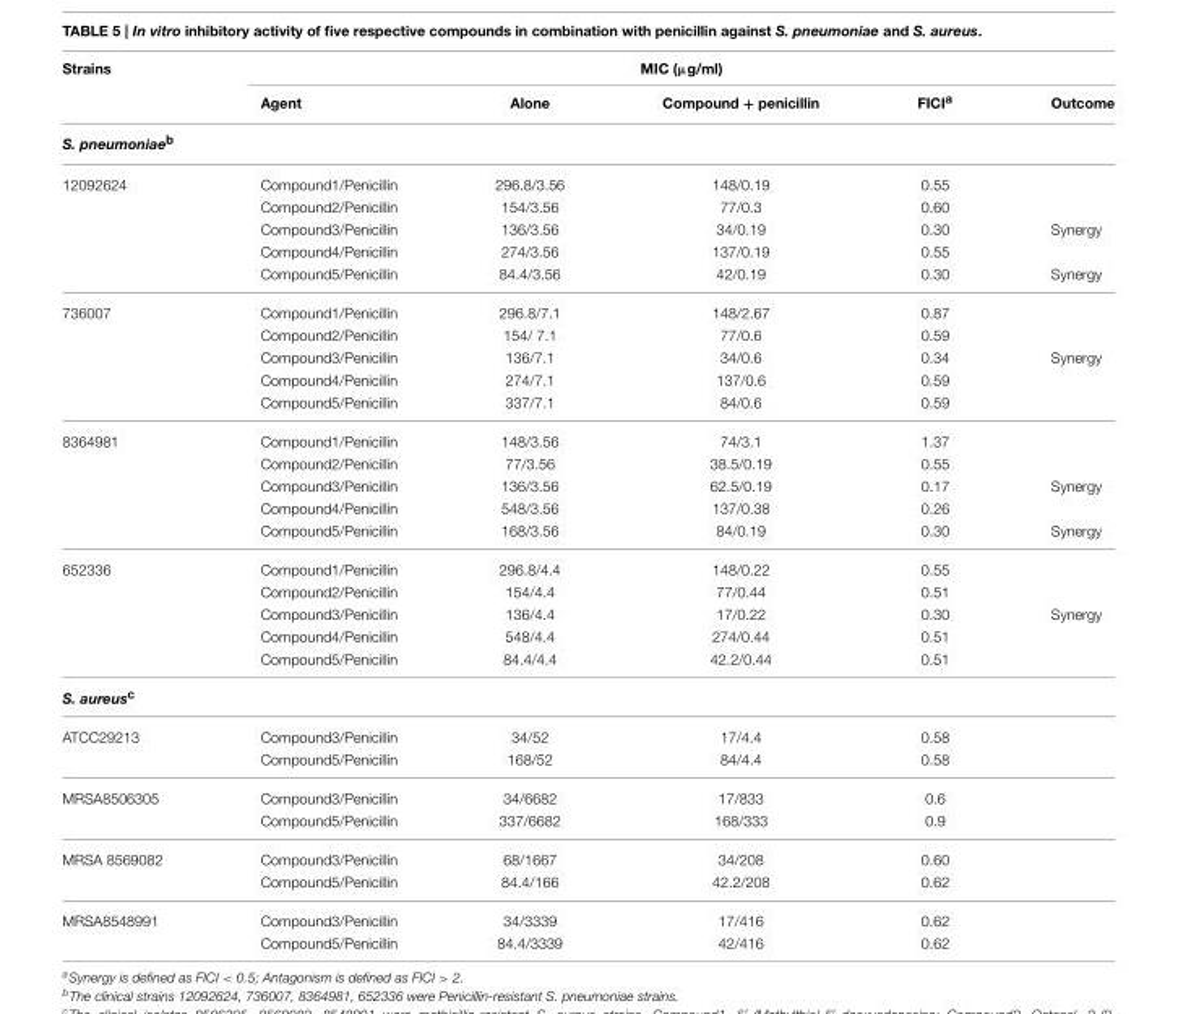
<table><thead><tr><td rowspan="2">Strains</td><td colspan="5">MIC (µg/ml)</td></tr><tr><td>Agent</td><td>Alone</td><td>Compound + penicillin</td><td>FICI<sup>a</sup></td><td>Outcome</td></tr></thead><tbody><tr><td colspan="6">S. pneumoniae<sup>b</sup></td></tr><tr><td rowspan="5">12092624</td><td>Compound1/Penicillin</td><td>296.8/3.56</td><td>148/0.19</td><td>0.55</td><td></td></tr><tr><td>Compound2/Penicillin</td><td>154/3.56</td><td>77/0.3</td><td>0.60</td><td></td></tr><tr><td>Compound3/Penicillin</td><td>136/3.56</td><td>34/0.19</td><td>0.30</td><td>Synergy</td></tr><tr><td>Compound4/Penicillin</td><td>274/3.56</td><td>137/0.19</td><td>0.55</td><td></td></tr><tr><td>Compound5/Penicillin</td><td>84.4/3.56</td><td>42/0.19</td><td>0.30</td><td>Synergy</td></tr><tr><td rowspan="5">736007</td><td>Compound1/Penicillin</td><td>296.8/7.1</td><td>148/2.67</td><td>0.87</td><td></td></tr><tr><td>Compound2/Penicillin</td><td>154/ 7.1</td><td>77/0.6</td><td>0.59</td><td></td></tr><tr><td>Compound3/Penicillin</td><td>136/7.1</td><td>34/0.6</td><td>0.34</td><td>Synergy</td></tr><tr><td>Compound4/Penicillin</td><td>274/7.1</td><td>137/0.6</td><td>0.59</td><td></td></tr><tr><td>Compound5/Penicillin</td><td>337/7.1</td><td>84/0.6</td><td>0.59</td><td></td></tr><tr><td rowspan="5">8364981</td><td>Compound1/Penicillin</td><td>148/3.56</td><td>74/3.1</td><td>1.37</td><td></td></tr><tr><td>Compound2/Penicillin</td><td>77/3.56</td><td>38.5/0.19</td><td>0.55</td><td></td></tr><tr><td>Compound3/Penicillin</td><td>136/3.56</td><td>62.5/0.19</td><td>0.17</td><td>Synergy</td></tr><tr><td>Compound4/Penicillin</td><td>548/3.56</td><td>137/0.38</td><td>0.26</td><td></td></tr><tr><td>Compound5/Penicillin</td><td>168/3.56</td><td>84/0.19</td><td>0.30</td><td>Synergy</td></tr><tr><td rowspan="5">652336</td><td>Compound1/Penicillin</td><td>296.8/4.4</td><td>148/0.22</td><td>0.55</td><td></td></tr><tr><td>Compound2/Penicillin</td><td>154/4.4</td><td>77/0.44</td><td>0.51</td><td></td></tr><tr><td>Compound3/Penicillin</td><td>136/4.4</td><td>17/0.22</td><td>0.30</td><td>Synergy</td></tr><tr><td>Compound4/Penicillin</td><td>548/4.4</td><td>274/0.44</td><td>0.51</td><td></td></tr><tr><td>Compound5/Penicillin</td><td>84.4/4.4</td><td>42.2/0.44</td><td>0.51</td><td></td></tr><tr><td colspan="6">S. aureus<sup>c</sup></td></tr><tr><td rowspan="2">ATCC29213</td><td>Compound3/Penicillin</td><td>34/52</td><td>17/4.4</td><td>0.58</td><td></td></tr><tr><td>Compound5/Penicillin</td><td>168/52</td><td>84/4.4</td><td>0.58</td><td></td></tr><tr><td rowspan="2">MRSA8506305</td><td>Compound3/Penicillin</td><td>34/6682</td><td>17/833</td><td>0.6</td><td></td></tr><tr><td>Compound5/Penicillin</td><td>337/6682</td><td>168/333</td><td>0.9</td><td></td></tr><tr><td rowspan="2">MRSA 8569082</td><td>Compound3/Penicillin</td><td>68/1667</td><td>34/208</td><td>0.60</td><td></td></tr><tr><td>Compound5/Penicillin</td><td>84.4/166</td><td>42.2/208</td><td>0.62</td><td></td></tr><tr><td rowspan="2">MRSA8548991</td><td>Compound3/Penicillin</td><td>34/3339</td><td>17/416</td><td>0.62</td><td></td></tr><tr><td>Compound5/Penicillin</td><td>84.4/3339</td><td>42/416</td><td>0.62</td><td></td></tr></tbody></table>